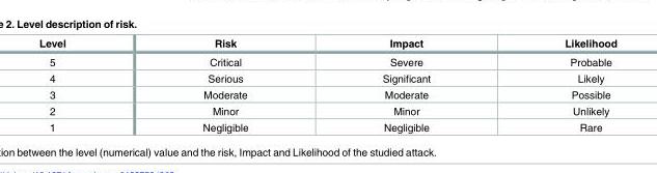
<table><thead><tr><td>Level</td><td>Risk</td><td>Impact</td><td>Likelihood</td></tr></thead><tbody><tr><td>5</td><td>Critical</td><td>Severe</td><td>Probable</td></tr><tr><td>4</td><td>Serious</td><td>Significant</td><td>Likely</td></tr><tr><td>3</td><td>Moderate</td><td>Moderate</td><td>Possible</td></tr><tr><td>2</td><td>Minor</td><td>Minor</td><td>Unlikely</td></tr><tr><td>1</td><td>Negligible</td><td>Negligible</td><td>Rare</td></tr></tbody></table>